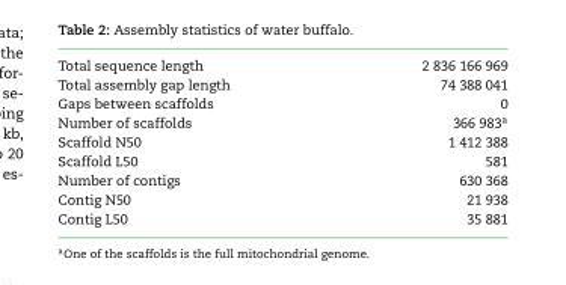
<table><tbody><tr><td>Total sequence length</td><td>2 836 166 969</td></tr><tr><td>Total assembly gap length</td><td>74 388 041</td></tr><tr><td>Gaps between scaffolds</td><td>0</td></tr><tr><td>Number of scaffolds</td><td>366 983<sup>a</sup></td></tr><tr><td>Scaffold N50</td><td>1 412 388</td></tr><tr><td>Scaffold L50</td><td>581</td></tr><tr><td>Number of contigs</td><td>630 368</td></tr><tr><td>Contig N50</td><td>21 938</td></tr><tr><td>Contig L50</td><td>35 881</td></tr></tbody></table>